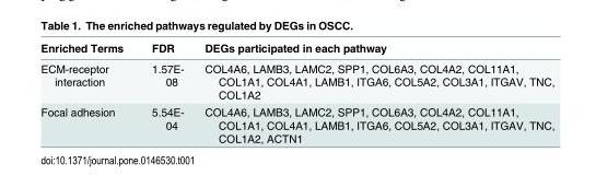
<table><thead><tr><td>Enriched Terms</td><td>FDR</td><td>DEGs participated in each pathway</td></tr></thead><tbody><tr><td>ECM-receptor interaction</td><td>1.57E- 08</td><td>COL4A6, LAMB3, LAMC2, SPP1, COL6A3, COL4A2, COL11A1, COL1A1, COL4A1, LAMB1, ITGA6, COL5A2, COL3A1, ITGAV, TNC, COL1A2</td></tr><tr><td>Focal adhesion</td><td>5.54E- 04</td><td>COL4A6, LAMB3, LAMC2, SPP1, COL6A3, COL4A2, COL11A1, COL1A1, COL4A1, LAMB1, ITGA6, COL5A2, COL3A1, ITGAV, TNC, COL1A2, ACTN1</td></tr></tbody></table>